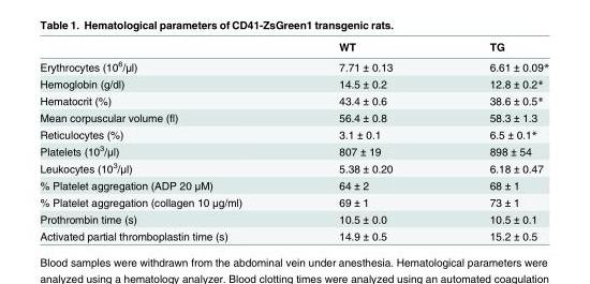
<table><thead><tr><td></td><td>WT</td><td>TG</td></tr></thead><tbody><tr><td>Erythrocytes (10<sup>6</sup>/μl)</td><td>7.71 ± 0.13</td><td>6.61 ± 0.09*</td></tr><tr><td>Hemoglobin (g/dl)</td><td>14.5 ± 0.2</td><td>12.8 ± 0.2*</td></tr><tr><td>Hematocrit (%)</td><td>43.4 ± 0.6</td><td>38.6 ± 0.5*</td></tr><tr><td>Mean corpuscular volume (fl)</td><td>56.4 ± 0.8</td><td>58.3 ± 1.3</td></tr><tr><td>Reticulocytes (%)</td><td>3.1 ± 0.1</td><td>6.5 ± 0.1*</td></tr><tr><td>Platelets (10<sup>3</sup>/μl)</td><td>807 ± 19</td><td>898 ± 54</td></tr><tr><td>Leukocytes (10<sup>3</sup>/μl)</td><td>5.38 ± 0.20</td><td>6.18 ± 0.47</td></tr><tr><td>% Platelet aggregation (ADP 20 μM)</td><td>64 ± 2</td><td>68 ± 1</td></tr><tr><td>% Platelet aggregation (collagen 10 μg/ml)</td><td>69 ± 1</td><td>73 ± 1</td></tr><tr><td>Prothrombin time (s)</td><td>10.5 ± 0.0</td><td>10.5 ± 0.1</td></tr><tr><td>Activated partial thromboplastin time (s)</td><td>14.9 ± 0.5</td><td>15.2 ± 0.5</td></tr></tbody></table>